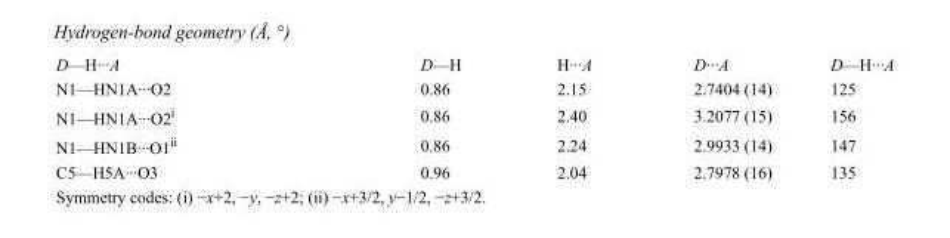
<table><tbody><tr><td>D—H···A</td><td>D—H</td><td>H···A</td><td>D···A</td><td>D—H···A</td></tr><tr><td>N1—HN1A···O2</td><td>0.86</td><td>2.15</td><td>2.7404 (14)</td><td>125</td></tr><tr><td>N1—HN1A···O2<sup>i</sup></td><td>0.86</td><td>2.40</td><td>3.2077 (15)</td><td>156</td></tr><tr><td>N1—HN1B···O1<sup>ii</sup></td><td>0.86</td><td>2.24</td><td>2.9933 (14)</td><td>147</td></tr><tr><td>C5—H5A···O3</td><td>0.96</td><td>2.04</td><td>2.7978 (16)</td><td>135</td></tr></tbody></table>